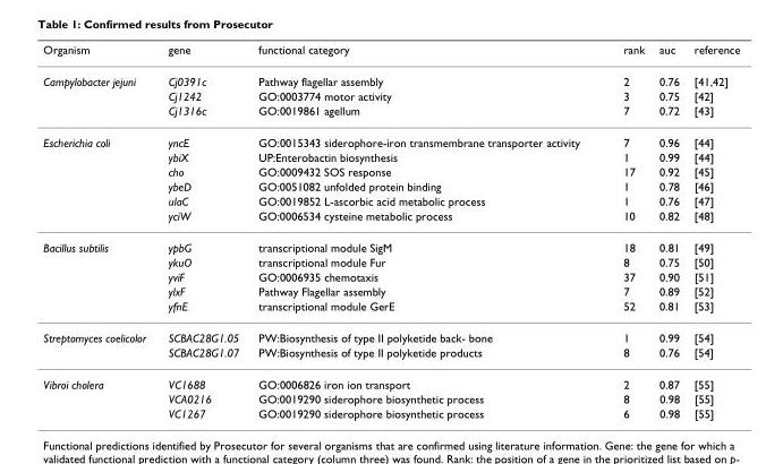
<table><thead><tr><td>Organism</td><td>gene</td><td>functional category</td><td>rank</td><td>auc</td><td>reference</td></tr></thead><tbody><tr><td rowspan="3">Campylobacter jejuni</td><td>Cj0391c</td><td>Pathway flagellar assembly</td><td>2</td><td>0.76</td><td>[41,42]</td></tr><tr><td>Cj1242</td><td>GO:0003774 motor activity</td><td>3</td><td>0.75</td><td>[42]</td></tr><tr><td>Cj1316c</td><td>GO:0019861 agellum</td><td>7</td><td>0.72</td><td>[43]</td></tr><tr><td rowspan="6">Escherichia coli</td><td>yncE</td><td>GO:0015343 siderophore-iron transmembrane transporter activity</td><td>7</td><td>0.96</td><td>[44]</td></tr><tr><td>ybiX</td><td>UP:Enterobactin biosynthesis</td><td>1</td><td>0.99</td><td>[44]</td></tr><tr><td>cho</td><td>GO:0009432 SOS response</td><td>17</td><td>0.92</td><td>[45]</td></tr><tr><td>ybeD</td><td>GO:0051082 unfolded protein binding</td><td>1</td><td>0.78</td><td>[46]</td></tr><tr><td>ulaC</td><td>GO:0019852 L-ascorbic acid metabolic process</td><td>1</td><td>0.76</td><td>[47]</td></tr><tr><td>yciW</td><td>GO:0006534 cysteine metabolic process</td><td>10</td><td>0.82</td><td>[48]</td></tr><tr><td rowspan="5">Bacillus subtilis</td><td>ypbG</td><td>transcriptional module SigM</td><td>18</td><td>0.81</td><td>[49]</td></tr><tr><td>ykuO</td><td>transcriptional module Fur</td><td>8</td><td>0.75</td><td>[50]</td></tr><tr><td>yviF</td><td>GO:0006935 chemotaxis</td><td>37</td><td>0.90</td><td>[51]</td></tr><tr><td>ylxF</td><td>Pathway Flagellar assembly</td><td>7</td><td>0.89</td><td>[52]</td></tr><tr><td>yfnE</td><td>transcriptional module GerE</td><td>52</td><td>0.81</td><td>[53]</td></tr><tr><td rowspan="2">Streptomyces coelicolor</td><td>SCBAC28G1.05</td><td>PW:Biosynthesis of type II polyketide back- bone</td><td>1</td><td>0.99</td><td>[54]</td></tr><tr><td>SCBAC28G1.07</td><td>PW:Biosynthesis of type II polyketide products</td><td>8</td><td>0.76</td><td>[54]</td></tr><tr><td rowspan="3">Vibroi cholera</td><td>VC1688</td><td>GO:0006826 iron ion transport</td><td>2</td><td>0.87</td><td>[55]</td></tr><tr><td>VCA0216</td><td>GO:0019290 siderophore biosynthetic process</td><td>8</td><td>0.98</td><td>[55]</td></tr><tr><td>VC1267</td><td>GO:0019290 siderophore biosynthetic process</td><td>6</td><td>0.98</td><td>[55]</td></tr></tbody></table>